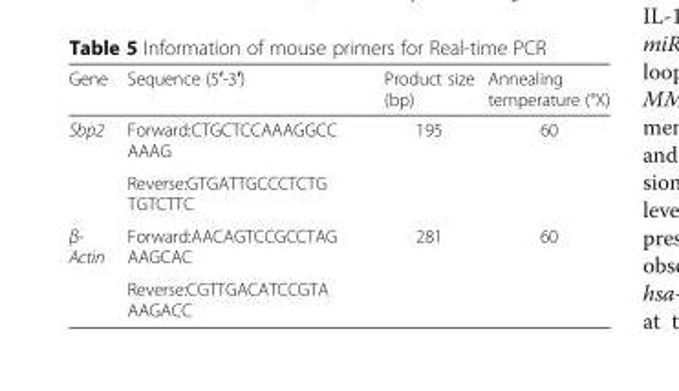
<table><thead><tr><td>Gene</td><td>Sequence (5′-3′)</td><td>Product size (bp)</td><td>Annealing temperature (°Χ)</td></tr></thead><tbody><tr><td rowspan="2">Sbp2</td><td>Forward:CTGCTCCAAAGGCC AAAG</td><td rowspan="2">195</td><td rowspan="2">60</td></tr><tr><td>Reverse:GTGATTGCCCTCTG TGTCTTC</td></tr><tr><td rowspan="2">β- Actin</td><td>Forward:AACAGTCCGCCTAG AAGCAC</td><td rowspan="2">281</td><td rowspan="2">60</td></tr><tr><td>Reverse:CGTTGACATCCGTA AAGACC</td></tr></tbody></table>